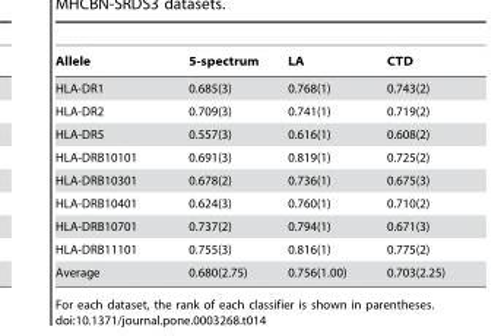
<table><thead><tr><td>Allele</td><td>5-spectrum</td><td>LA</td><td>CTD</td></tr></thead><tbody><tr><td>HLA-DR1</td><td>0.685(3)</td><td>0.768(1)</td><td>0.743(2)</td></tr><tr><td>HLA-DR2</td><td>0.709(3)</td><td>0.741(1)</td><td>0.719(2)</td></tr><tr><td>HLA-DR5</td><td>0.557(3)</td><td>0.616(1)</td><td>0.608(2)</td></tr><tr><td>HLA-DRB10101</td><td>0.691(3)</td><td>0.819(1)</td><td>0.725(2)</td></tr><tr><td>HLA-DRB10301</td><td>0.678(2)</td><td>0.736(1)</td><td>0.675(3)</td></tr><tr><td>HLA-DRB10401</td><td>0.624(3)</td><td>0.760(1)</td><td>0.710(2)</td></tr><tr><td>HLA-DRB10701</td><td>0.737(2)</td><td>0.794(1)</td><td>0.671(3)</td></tr><tr><td>HLA-DRB11101</td><td>0.755(3)</td><td>0.816(1)</td><td>0.775(2)</td></tr><tr><td>Average</td><td>0.680(2.75)</td><td>0.756(1.00)</td><td>0.703(2.25)</td></tr></tbody></table>